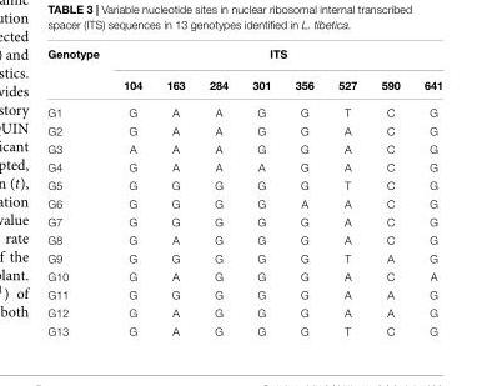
<table><thead><tr><td rowspan="2">Genotype</td><td colspan="8">ITS</td></tr><tr><td>104</td><td>163</td><td>284</td><td>301</td><td>356</td><td>527</td><td>590</td><td>641</td></tr></thead><tbody><tr><td>G1</td><td>G</td><td>A</td><td>A</td><td>G</td><td>G</td><td>T</td><td>C</td><td>G</td></tr><tr><td>G2</td><td>G</td><td>A</td><td>A</td><td>G</td><td>G</td><td>A</td><td>C</td><td>G</td></tr><tr><td>G3</td><td>A</td><td>A</td><td>A</td><td>G</td><td>G</td><td>A</td><td>C</td><td>G</td></tr><tr><td>G4</td><td>G</td><td>A</td><td>A</td><td>A</td><td>G</td><td>A</td><td>C</td><td>G</td></tr><tr><td>G5</td><td>G</td><td>G</td><td>G</td><td>G</td><td>G</td><td>T</td><td>C</td><td>G</td></tr><tr><td>G6</td><td>G</td><td>G</td><td>G</td><td>G</td><td>A</td><td>A</td><td>C</td><td>G</td></tr><tr><td>G7</td><td>G</td><td>G</td><td>G</td><td>G</td><td>G</td><td>A</td><td>C</td><td>G</td></tr><tr><td>G8</td><td>G</td><td>A</td><td>G</td><td>G</td><td>G</td><td>A</td><td>C</td><td>G</td></tr><tr><td>G9</td><td>G</td><td>G</td><td>G</td><td>G</td><td>G</td><td>T</td><td>A</td><td>G</td></tr><tr><td>G10</td><td>G</td><td>A</td><td>G</td><td>G</td><td>G</td><td>A</td><td>C</td><td>A</td></tr><tr><td>G11</td><td>G</td><td>G</td><td>G</td><td>G</td><td>G</td><td>A</td><td>A</td><td>G</td></tr><tr><td>G12</td><td>G</td><td>A</td><td>G</td><td>G</td><td>G</td><td>A</td><td>A</td><td>G</td></tr><tr><td>G13</td><td>G</td><td>A</td><td>G</td><td>G</td><td>G</td><td>T</td><td>C</td><td>G</td></tr></tbody></table>